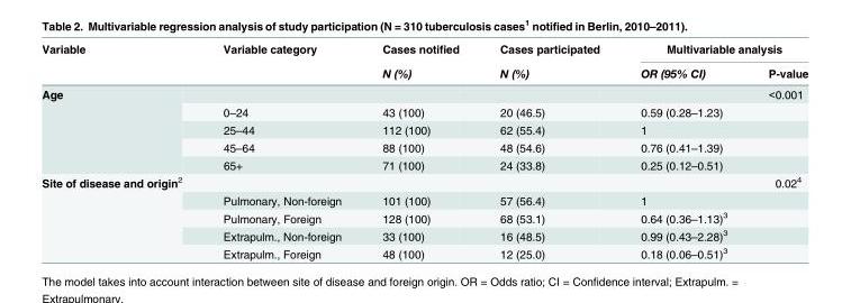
<table><thead><tr><td rowspan="2">Variable</td><td rowspan="2">Variable category</td><td rowspan="2">Cases notified N (%)</td><td rowspan="2">Cases participated N (%)</td><td colspan="2">Multivariable analysis</td></tr><tr><td>OR (95% CI)</td><td>P-value</td></tr></thead><tbody><tr><td rowspan="5">Age</td><td></td><td></td><td></td><td></td><td>&lt;0.001</td></tr><tr><td>0–24</td><td>43 (100)</td><td>20 (46.5)</td><td>0.59 (0.28–1.23)</td><td></td></tr><tr><td>25–44</td><td>112 (100)</td><td>62 (55.4)</td><td>1</td><td></td></tr><tr><td>45–64</td><td>88 (100)</td><td>48 (54.6)</td><td>0.76 (0.41–1.39)</td><td></td></tr><tr><td>65+</td><td>71 (100)</td><td>24 (33.8)</td><td>0.25 (0.12–0.51)</td><td></td></tr><tr><td rowspan="5">Site of disease and origin<sup>2</sup></td><td></td><td></td><td></td><td></td><td>0.02<sup>4</sup></td></tr><tr><td>Pulmonary, Non-foreign</td><td>101 (100)</td><td>57 (56.4)</td><td>1</td><td></td></tr><tr><td>Pulmonary, Foreign</td><td>128 (100)</td><td>68 (53.1)</td><td>0.64 (0.36–1.13)<sup>3</sup></td><td></td></tr><tr><td>Extrapulm., Non-foreign</td><td>33 (100)</td><td>16 (48.5)</td><td>0.99 (0.43–2.28)<sup>3</sup></td><td></td></tr><tr><td>Extrapulm., Foreign</td><td>48 (100)</td><td>12 (25.0)</td><td>0.18 (0.06–0.51)<sup>3</sup></td><td></td></tr></tbody></table>